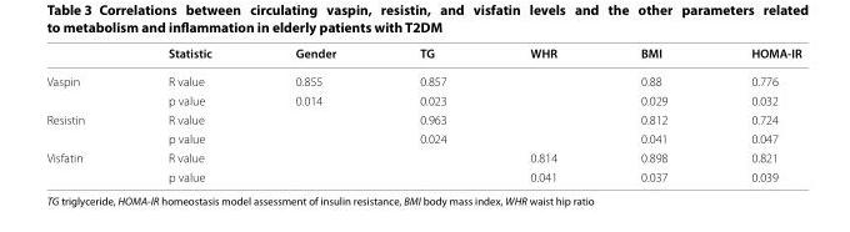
<table><thead><tr><td></td><td>Statistic</td><td>Gender</td><td>TG</td><td>WHR</td><td>BMI</td><td>HOMA‑IR</td></tr></thead><tbody><tr><td rowspan="2">Vaspin</td><td>R value</td><td>0.855</td><td>0.857</td><td></td><td>0.88</td><td>0.776</td></tr><tr><td>p value</td><td>0.014</td><td>0.023</td><td></td><td>0.029</td><td>0.032</td></tr><tr><td rowspan="2">Resistin</td><td>R value</td><td></td><td>0.963</td><td></td><td>0.812</td><td>0.724</td></tr><tr><td>p value</td><td></td><td>0.024</td><td></td><td>0.041</td><td>0.047</td></tr><tr><td rowspan="2">Visfatin</td><td>R value</td><td></td><td></td><td>0.814</td><td>0.898</td><td>0.821</td></tr><tr><td>p value</td><td></td><td></td><td>0.041</td><td>0.037</td><td>0.039</td></tr></tbody></table>